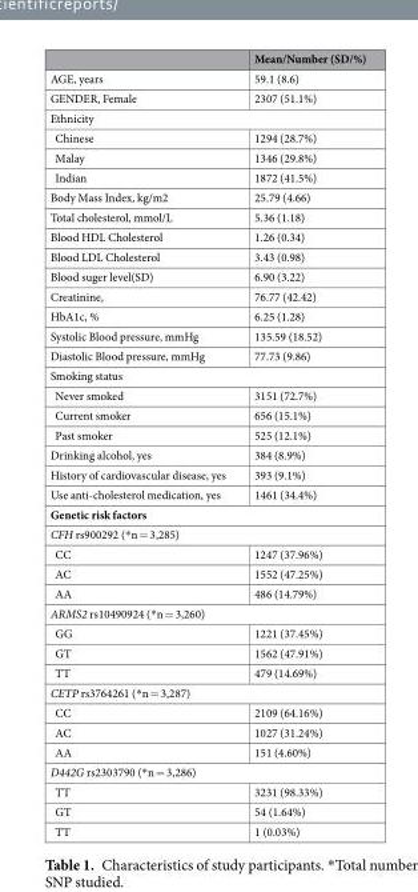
<table><thead><tr><td></td><td>Mean/Number (SD/%)</td></tr></thead><tbody><tr><td>AGE, years</td><td>59.1 (8.6)</td></tr><tr><td>GENDER, Female</td><td>2307 (51.1%)</td></tr><tr><td colspan="2">Ethnicity</td></tr><tr><td>Chinese</td><td>1294 (28.7%)</td></tr><tr><td>Malay</td><td>1346 (29.8%)</td></tr><tr><td>Indian</td><td>1872 (41.5%)</td></tr><tr><td>Body Mass Index, kg/m2</td><td>25.79 (4.66)</td></tr><tr><td>Total cholesterol, mmol/L</td><td>5.36 (1.18)</td></tr><tr><td>Blood HDL Cholesterol</td><td>1.26 (0.34)</td></tr><tr><td>Blood LDL Cholesterol</td><td>3.43 (0.98)</td></tr><tr><td>Blood suger level(SD)</td><td>6.90 (3.22)</td></tr><tr><td>Creatinine,</td><td>76.77 (42.42)</td></tr><tr><td>HbA1c, %</td><td>6.25 (1.28)</td></tr><tr><td>Systolic Blood pressure, mmHg</td><td>135.59 (18.52)</td></tr><tr><td>Diastolic Blood pressure, mmHg</td><td>77.73 (9.86)</td></tr><tr><td colspan="2">Smoking status</td></tr><tr><td>Never smoked</td><td>3151 (72.7%)</td></tr><tr><td>Current smoker</td><td>656 (15.1%)</td></tr><tr><td>Past smoker</td><td>525 (12.1%)</td></tr><tr><td>Drinking alcohol, yes</td><td>384 (8.9%)</td></tr><tr><td>History of cardiovascular disease, yes</td><td>393 (9.1%)</td></tr><tr><td>Use anti-cholesterol medication, yes</td><td>1461 (34.4%)</td></tr><tr><td colspan="2">Genetic risk factors</td></tr><tr><td colspan="2">CFH rs900292 (*n = 3,285)</td></tr><tr><td>CC</td><td>1247 (37.96%)</td></tr><tr><td>AC</td><td>1552 (47.25%)</td></tr><tr><td>AA</td><td>486 (14.79%)</td></tr><tr><td colspan="2">ARMS2 rs10490924 (*n = 3,260)</td></tr><tr><td>GG</td><td>1221 (37.45%)</td></tr><tr><td>GT</td><td>1562 (47.91%)</td></tr><tr><td>TT</td><td>479 (14.69%)</td></tr><tr><td colspan="2">CETP rs3764261 (*n = 3,287)</td></tr><tr><td>CC</td><td>2109 (64.16%)</td></tr><tr><td>AC</td><td>1027 (31.24%)</td></tr><tr><td>AA</td><td>151 (4.60%)</td></tr><tr><td colspan="2">D442G rs2303790 (*n = 3,286)</td></tr><tr><td>TT</td><td>3231 (98.33%)</td></tr><tr><td>GT</td><td>54 (1.64%)</td></tr><tr><td>TT</td><td>1 (0.03%)</td></tr></tbody></table>